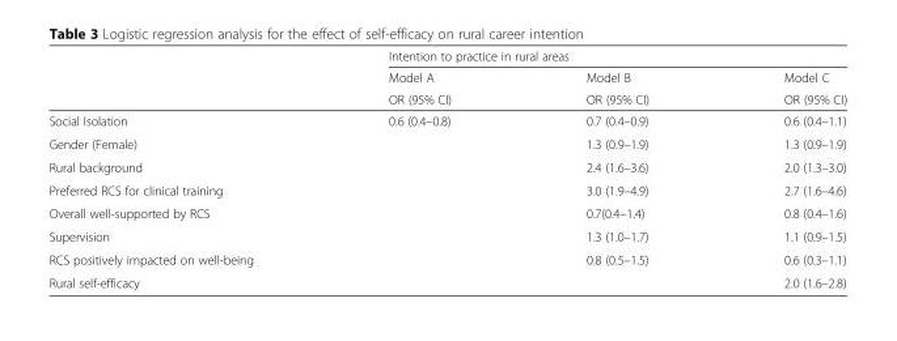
<table><thead><tr><td rowspan="3"></td><td colspan="3">Intention to practice in rural areas</td></tr><tr><td rowspan="2">Model A OR (95% CI)</td><td rowspan="2">Model B OR (95% CI)</td><td rowspan="2">Model C OR (95% CI)</td></tr><tr></tr></thead><tbody><tr><td>Social Isolation</td><td>0.6 (0.4–0.8)</td><td>0.7 (0.4–0.9)</td><td>0.6 (0.4–1.1)</td></tr><tr><td>Gender (Female)</td><td></td><td>1.3 (0.9–1.9)</td><td>1.3 (0.9–1.9)</td></tr><tr><td>Rural background</td><td></td><td>2.4 (1.6–3.6)</td><td>2.0 (1.3–3.0)</td></tr><tr><td>Preferred RCS for clinical training</td><td></td><td>3.0 (1.9–4.9)</td><td>2.7 (1.6–4.6)</td></tr><tr><td>Overall well-supported by RCS</td><td></td><td>0.7(0.4–1.4)</td><td>0.8 (0.4–1.6)</td></tr><tr><td>Supervision</td><td></td><td>1.3 (1.0–1.7)</td><td>1.1 (0.9–1.5)</td></tr><tr><td>RCS positively impacted on well-being</td><td></td><td>0.8 (0.5–1.5)</td><td>0.6 (0.3–1.1)</td></tr><tr><td>Rural self-efficacy</td><td></td><td></td><td>2.0 (1.6–2.8)</td></tr></tbody></table>